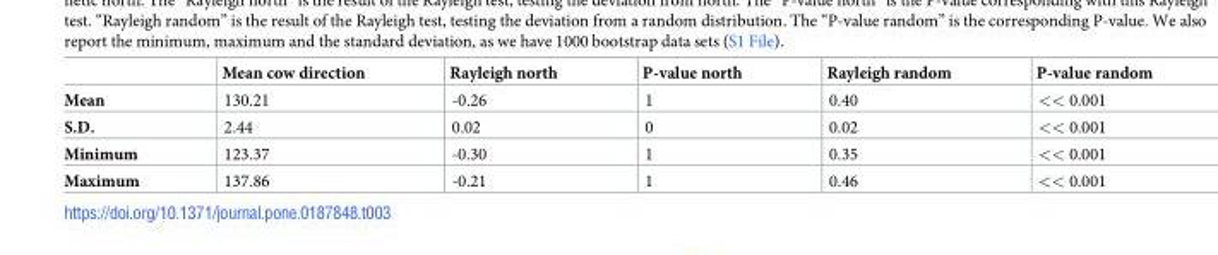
<table><thead><tr><td></td><td>Mean cow direction</td><td>Rayleigh north</td><td>P-value north</td><td>Rayleigh random</td><td>P-value random</td></tr></thead><tbody><tr><td>Mean</td><td>130.21</td><td>-0.26</td><td>1</td><td>0.40</td><td>&lt;&lt; 0.001</td></tr><tr><td>S.D.</td><td>2.44</td><td>0.02</td><td>0</td><td>0.02</td><td>&lt;&lt; 0.001</td></tr><tr><td>Minimum</td><td>123.37</td><td>-0.30</td><td>1</td><td>0.35</td><td>&lt;&lt; 0.001</td></tr><tr><td>Maximum</td><td>137.86</td><td>-0.21</td><td>1</td><td>0.46</td><td>&lt;&lt; 0.001</td></tr></tbody></table>